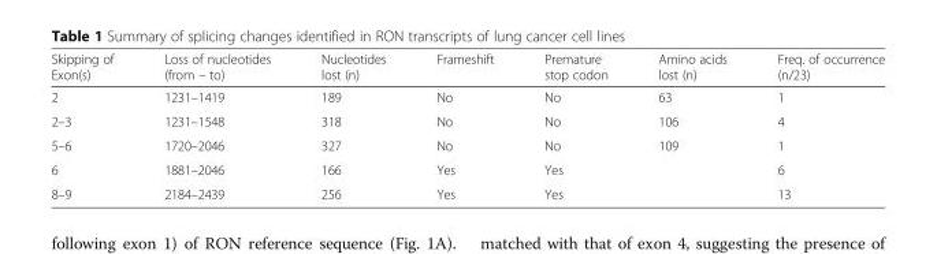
<table><thead><tr><td>Skipping of Exon(s)</td><td>Loss of nucleotides (from – to)</td><td>Nucleotides lost (n)</td><td>Frameshift</td><td>Premature stop codon</td><td>Amino acids lost (n)</td><td>Freq. of occurrence (n/23)</td></tr></thead><tbody><tr><td>2</td><td>1231–1419</td><td>189</td><td>No</td><td>No</td><td>63</td><td>1</td></tr><tr><td>2–3</td><td>1231–1548</td><td>318</td><td>No</td><td>No</td><td>106</td><td>4</td></tr><tr><td>5–6</td><td>1720–2046</td><td>327</td><td>No</td><td>No</td><td>109</td><td>1</td></tr><tr><td>6</td><td>1881–2046</td><td>166</td><td>Yes</td><td>Yes</td><td></td><td>6</td></tr><tr><td>8–9</td><td>2184–2439</td><td>256</td><td>Yes</td><td>Yes</td><td></td><td>13</td></tr></tbody></table>